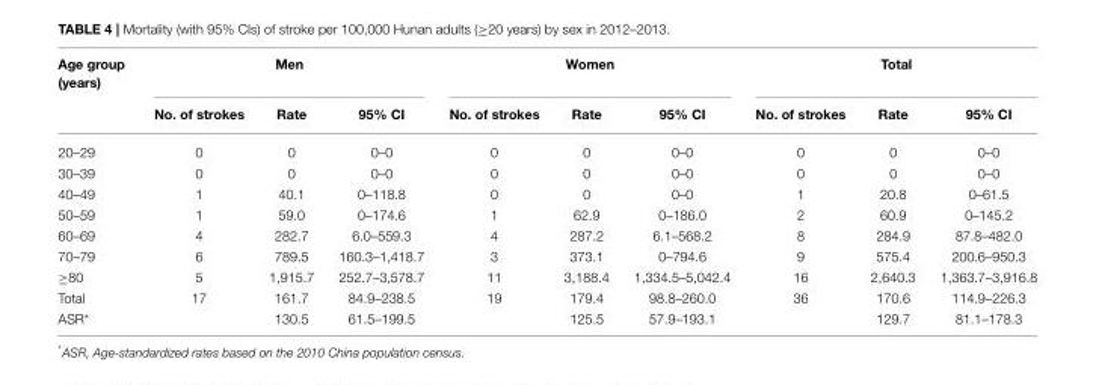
<table><thead><tr><td rowspan="2">Age group (years)</td><td colspan="3">Men</td><td colspan="3">Women</td><td colspan="3">Total</td></tr><tr><td>No. of strokes</td><td>Rate</td><td>95% CI</td><td>No. of strokes</td><td>Rate</td><td>95% CI</td><td>No. of strokes</td><td>Rate</td><td>95% CI</td></tr></thead><tbody><tr><td>20–29</td><td>0</td><td>0</td><td>0–0</td><td>0</td><td>0</td><td>0–0</td><td>0</td><td>0</td><td>0–0</td></tr><tr><td>30–39</td><td>0</td><td>0</td><td>0–0</td><td>0</td><td>0</td><td>0–0</td><td>0</td><td>0</td><td>0–0</td></tr><tr><td>40–49</td><td>1</td><td>40.1</td><td>0–118.8</td><td>0</td><td>0</td><td>0–0</td><td>1</td><td>20.8</td><td>0–61.5</td></tr><tr><td>50–59</td><td>1</td><td>59.0</td><td>0–174.6</td><td>1</td><td>62.9</td><td>0–186.0</td><td>2</td><td>60.9</td><td>0–145.2</td></tr><tr><td>60–69</td><td>4</td><td>282.7</td><td>6.0–559.3</td><td>4</td><td>287.2</td><td>6.1–568.2</td><td>8</td><td>284.9</td><td>87.8–482.0</td></tr><tr><td>70–79</td><td>6</td><td>789.5</td><td>160.3–1,418.7</td><td>3</td><td>373.1</td><td>0–794.6</td><td>9</td><td>575.4</td><td>200.6–950.3</td></tr><tr><td>≥80</td><td>5</td><td>1,915.7</td><td>252.7–3,578.7</td><td>11</td><td>3,188.4</td><td>1,334.5–5,042.4</td><td>16</td><td>2,640.3</td><td>1,363.7–3,916.8</td></tr><tr><td>Total</td><td>17</td><td>161.7</td><td>84.9–238.5</td><td>19</td><td>179.4</td><td>98.8–260.0</td><td>36</td><td>170.6</td><td>114.9–226.3</td></tr><tr><td>ASR*</td><td></td><td>130.5</td><td>61.5–199.5</td><td></td><td>125.5</td><td>57.9–193.1</td><td></td><td>129.7</td><td>81.1–178.3</td></tr></tbody></table>